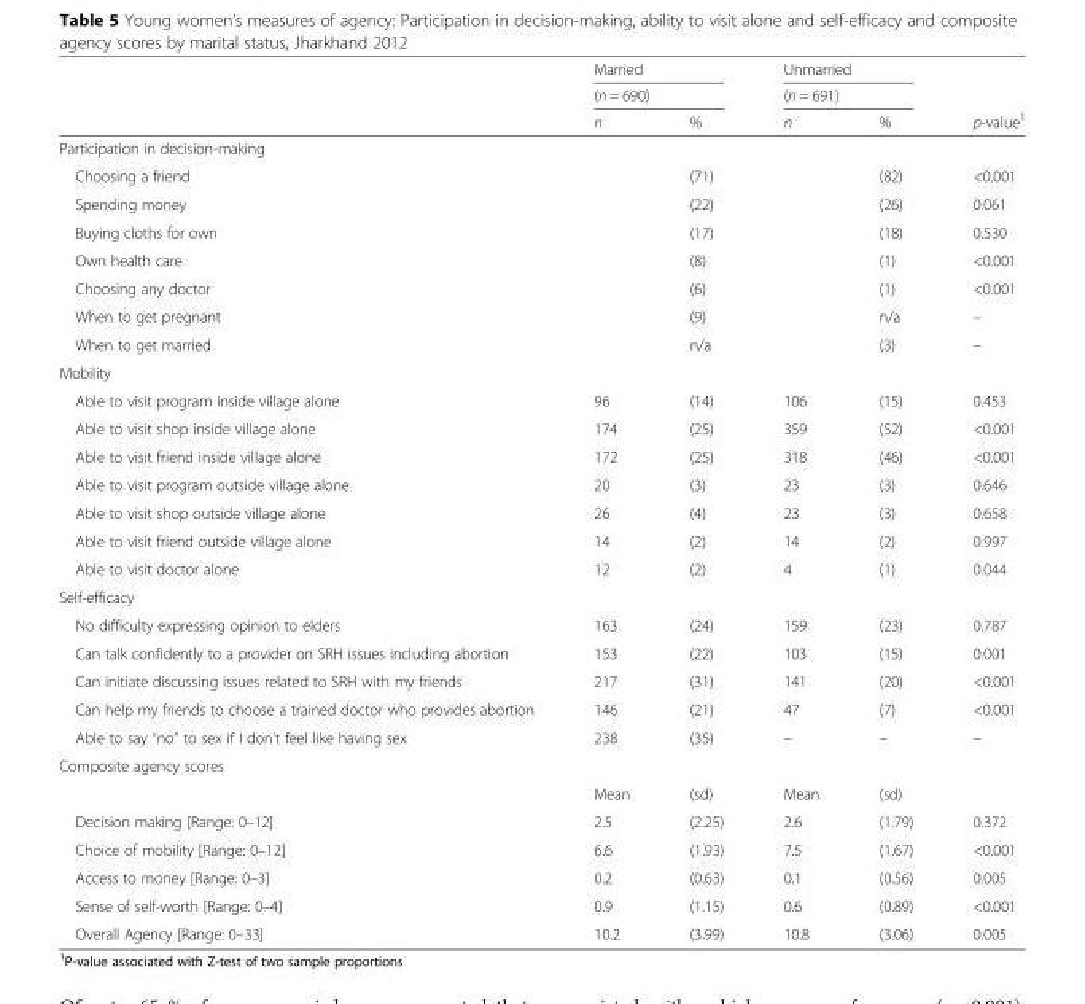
<table><thead><tr><td rowspan="3"></td><td rowspan="2" colspan="2">Married (n = 690)</td><td rowspan="2" colspan="2">Unmarried (n = 691)</td><td rowspan="3">p-value<sup>1</sup></td></tr><tr></tr><tr><td>n</td><td>%</td><td>n</td><td>%</td></tr></thead><tbody><tr><td colspan="6">Participation in decision-making</td></tr><tr><td>Choosing a friend</td><td></td><td>(71)</td><td></td><td>(82)</td><td>&lt;0.001</td></tr><tr><td>Spending money</td><td></td><td>(22)</td><td></td><td>(26)</td><td>0.061</td></tr><tr><td>Buying cloths for own</td><td></td><td>(17)</td><td></td><td>(18)</td><td>0.530</td></tr><tr><td>Own health care</td><td></td><td>(8)</td><td></td><td>(1)</td><td>&lt;0.001</td></tr><tr><td>Choosing any doctor</td><td></td><td>(6)</td><td></td><td>(1)</td><td>&lt;0.001</td></tr><tr><td>When to get pregnant</td><td></td><td>(9)</td><td></td><td>n/a</td><td>–</td></tr><tr><td>When to get married</td><td></td><td>n/a</td><td></td><td>(3)</td><td>–</td></tr><tr><td colspan="6">Mobility</td></tr><tr><td>Able to visit program inside village alone</td><td>96</td><td>(14)</td><td>106</td><td>(15)</td><td>0.453</td></tr><tr><td>Able to visit shop inside village alone</td><td>174</td><td>(25)</td><td>359</td><td>(52)</td><td>&lt;0.001</td></tr><tr><td>Able to visit friend inside village alone</td><td>172</td><td>(25)</td><td>318</td><td>(46)</td><td>&lt;0.001</td></tr><tr><td>Able to visit program outside village alone</td><td>20</td><td>(3)</td><td>23</td><td>(3)</td><td>0.646</td></tr><tr><td>Able to visit shop outside village alone</td><td>26</td><td>(4)</td><td>23</td><td>(3)</td><td>0.658</td></tr><tr><td>Able to visit friend outside village alone</td><td>14</td><td>(2)</td><td>14</td><td>(2)</td><td>0.997</td></tr><tr><td>Able to visit doctor alone</td><td>12</td><td>(2)</td><td>4</td><td>(1)</td><td>0.044</td></tr><tr><td colspan="6">Self-efficacy</td></tr><tr><td>No difficulty expressing opinion to elders</td><td>163</td><td>(24)</td><td>159</td><td>(23)</td><td>0.787</td></tr><tr><td>Can talk confidently to a provider on SRH issues including abortion</td><td>153</td><td>(22)</td><td>103</td><td>(15)</td><td>0.001</td></tr><tr><td>Can initiate discussing issues related to SRH with my friends</td><td>217</td><td>(31)</td><td>141</td><td>(20)</td><td>&lt;0.001</td></tr><tr><td>Can help my friends to choose a trained doctor who provides abortion</td><td>146</td><td>(21)</td><td>47</td><td>(7)</td><td>&lt;0.001</td></tr><tr><td>Able to say “no” to sex if I don’t feel like having sex</td><td>238</td><td>(35)</td><td>–</td><td>–</td><td>–</td></tr><tr><td colspan="6">Composite agency scores</td></tr><tr><td></td><td>Mean</td><td>(sd)</td><td>Mean</td><td>(sd)</td><td></td></tr><tr><td>Decision making [Range: 0–12]</td><td>2.5</td><td>(2.25)</td><td>2.6</td><td>(1.79)</td><td>0.372</td></tr><tr><td>Choice of mobility [Range: 0–12]</td><td>6.6</td><td>(1.93)</td><td>7.5</td><td>(1.67)</td><td>&lt;0.001</td></tr><tr><td>Access to money [Range: 0–3]</td><td>0.2</td><td>(0.63)</td><td>0.1</td><td>(0.56)</td><td>0.005</td></tr><tr><td>Sense of self-worth [Range: 0–4]</td><td>0.9</td><td>(1.15)</td><td>0.6</td><td>(0.89)</td><td>&lt;0.001</td></tr><tr><td>Overall Agency [Range: 0–33]</td><td>10.2</td><td>(3.99)</td><td>10.8</td><td>(3.06)</td><td>0.005</td></tr></tbody></table>